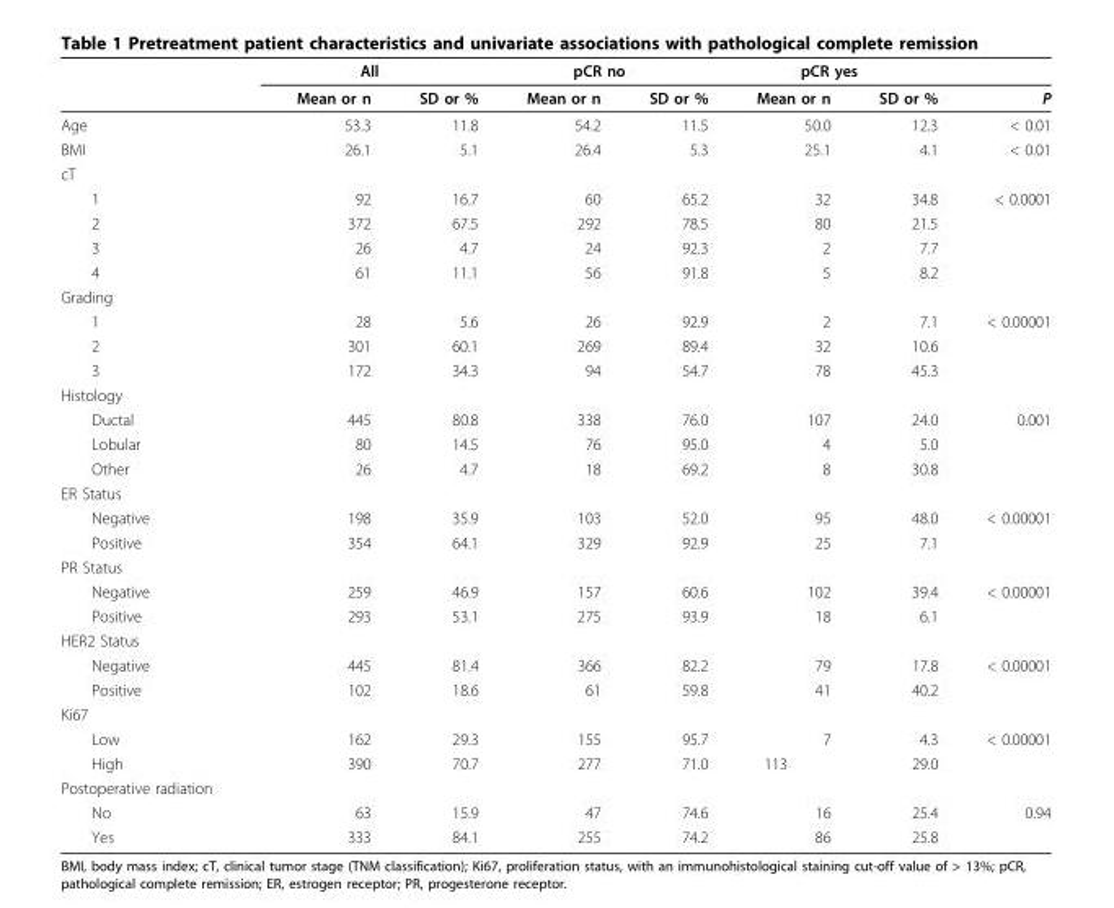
<table><thead><tr><td rowspan="2"></td><td colspan="2">All</td><td colspan="2">pCR no</td><td colspan="2">pCR yes</td><td rowspan="2">P</td></tr><tr><td>Mean or n</td><td>SD or %</td><td>Mean or n</td><td>SD or %</td><td>Mean or n</td><td>SD or %</td></tr></thead><tbody><tr><td>Age</td><td>53.3</td><td>11.8</td><td>54.2</td><td>11.5</td><td>50.0</td><td>12.3</td><td>&lt; 0.01</td></tr><tr><td>BMI</td><td>26.1</td><td>5.1</td><td>26.4</td><td>5.3</td><td>25.1</td><td>4.1</td><td>&lt; 0.01</td></tr><tr><td colspan="8">cT</td></tr><tr><td>1</td><td>92</td><td>16.7</td><td>60</td><td>65.2</td><td>32</td><td>34.8</td><td>&lt; 0.0001</td></tr><tr><td>2</td><td>372</td><td>67.5</td><td>292</td><td>78.5</td><td>80</td><td>21.5</td><td></td></tr><tr><td>3</td><td>26</td><td>4.7</td><td>24</td><td>92.3</td><td>2</td><td>7.7</td><td></td></tr><tr><td>4</td><td>61</td><td>11.1</td><td>56</td><td>91.8</td><td>5</td><td>8.2</td><td></td></tr><tr><td colspan="8">Grading</td></tr><tr><td>1</td><td>28</td><td>5.6</td><td>26</td><td>92.9</td><td>2</td><td>7.1</td><td>&lt; 0.00001</td></tr><tr><td>2</td><td>301</td><td>60.1</td><td>269</td><td>89.4</td><td>32</td><td>10.6</td><td></td></tr><tr><td>3</td><td>172</td><td>34.3</td><td>94</td><td>54.7</td><td>78</td><td>45.3</td><td></td></tr><tr><td colspan="8">Histology</td></tr><tr><td>Ductal</td><td>445</td><td>80.8</td><td>338</td><td>76.0</td><td>107</td><td>24.0</td><td>0.001</td></tr><tr><td>Lobular</td><td>80</td><td>14.5</td><td>76</td><td>95.0</td><td>4</td><td>5.0</td><td></td></tr><tr><td>Other</td><td>26</td><td>4.7</td><td>18</td><td>69.2</td><td>8</td><td>30.8</td><td></td></tr><tr><td colspan="8">ER Status</td></tr><tr><td>Negative</td><td>198</td><td>35.9</td><td>103</td><td>52.0</td><td>95</td><td>48.0</td><td>&lt; 0.00001</td></tr><tr><td>Positive</td><td>354</td><td>64.1</td><td>329</td><td>92.9</td><td>25</td><td>7.1</td><td></td></tr><tr><td colspan="8">PR Status</td></tr><tr><td>Negative</td><td>259</td><td>46.9</td><td>157</td><td>60.6</td><td>102</td><td>39.4</td><td>&lt; 0.00001</td></tr><tr><td>Positive</td><td>293</td><td>53.1</td><td>275</td><td>93.9</td><td>18</td><td>6.1</td><td></td></tr><tr><td colspan="8">HER2 Status</td></tr><tr><td>Negative</td><td>445</td><td>81.4</td><td>366</td><td>82.2</td><td>79</td><td>17.8</td><td>&lt; 0.00001</td></tr><tr><td>Positive</td><td>102</td><td>18.6</td><td>61</td><td>59.8</td><td>41</td><td>40.2</td><td></td></tr><tr><td colspan="8">Ki67</td></tr><tr><td>Low</td><td>162</td><td>29.3</td><td>155</td><td>95.7</td><td>7</td><td>4.3</td><td>&lt; 0.00001</td></tr><tr><td>High</td><td>390</td><td>70.7</td><td>277</td><td>71.0</td><td>113</td><td>29.0</td><td></td></tr><tr><td colspan="8">Postoperative radiation</td></tr><tr><td>No</td><td>63</td><td>15.9</td><td>47</td><td>74.6</td><td>16</td><td>25.4</td><td>0.94</td></tr><tr><td>Yes</td><td>333</td><td>84.1</td><td>255</td><td>74.2</td><td>86</td><td>25.8</td><td></td></tr></tbody></table>